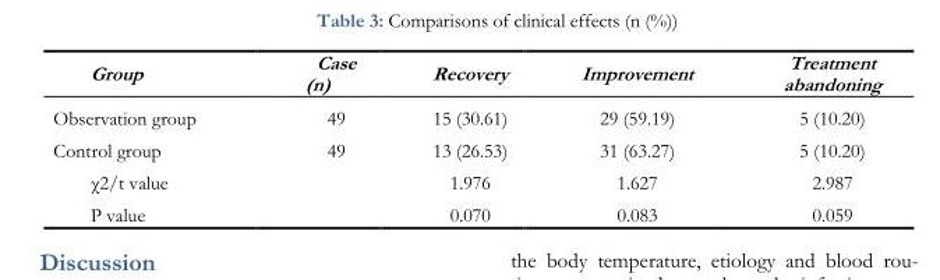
<table><thead><tr><td>Group</td><td>Case (n)</td><td>Recovery</td><td>Improvement</td><td>Treatment abandoning</td></tr></thead><tbody><tr><td>Observation group</td><td>49</td><td>15 (30.61)</td><td>29 (59.19)</td><td>5 (10.20)</td></tr><tr><td>Control group</td><td>49</td><td>13 (26.53)</td><td>31 (63.27)</td><td>5 (10.20)</td></tr><tr><td>χ<sup>2</sup>/t value</td><td></td><td>1.976</td><td>1.627</td><td>2.987</td></tr><tr><td>P value</td><td></td><td>0.070</td><td>0.083</td><td>0.059</td></tr></tbody></table>